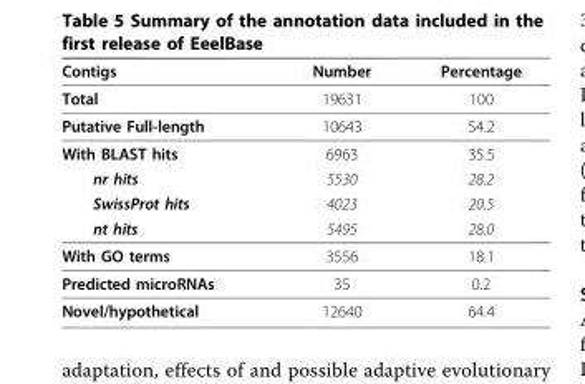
<table><thead><tr><td>Contigs</td><td>Number</td><td>Percentage</td></tr></thead><tbody><tr><td>Total</td><td>19631</td><td>100</td></tr><tr><td>Putative Full-length</td><td>10643</td><td>54.2</td></tr><tr><td>With BLAST hits</td><td>6963</td><td>35.5</td></tr><tr><td>nr hits</td><td>5530</td><td>28.2</td></tr><tr><td>SwissProt hits</td><td>4023</td><td>20.5</td></tr><tr><td>nt hits</td><td>5495</td><td>28.0</td></tr><tr><td>With GO terms</td><td>3556</td><td>18.1</td></tr><tr><td>Predicted microRNAs</td><td>35</td><td>0.2</td></tr><tr><td>Novel/hypothetical</td><td>12640</td><td>64.4</td></tr></tbody></table>